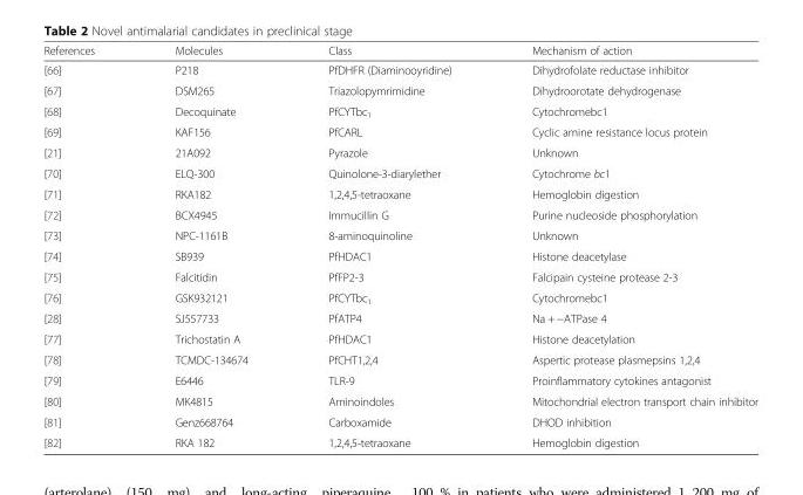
<table><thead><tr><td>References</td><td>Molecules</td><td>Class</td><td>Mechanism of action</td></tr></thead><tbody><tr><td>[66]</td><td>P218</td><td>PfDHFR (Diaminooyridine)</td><td>Dihydrofolate reductase inhibitor</td></tr><tr><td>[67]</td><td>DSM265</td><td>Triazolopymrimidine</td><td>Dihydroorotate dehydrogenase</td></tr><tr><td>[68]</td><td>Decoquinate</td><td>PfCYTbc<sub>1</sub></td><td>Cytochromebc1</td></tr><tr><td>[69]</td><td>KAF156</td><td>PfCARL</td><td>Cyclic amine resistance locus protein</td></tr><tr><td>[21]</td><td>21A092</td><td>Pyrazole</td><td>Unknown</td></tr><tr><td>[70]</td><td>ELQ-300</td><td>Quinolone-3-diarylether</td><td>Cytochrome bc1</td></tr><tr><td>[71]</td><td>RKA182</td><td>1,2,4,5-tetraoxane</td><td>Hemoglobin digestion</td></tr><tr><td>[72]</td><td>BCX4945</td><td>Immucillin G</td><td>Purine nucleoside phosphorylation</td></tr><tr><td>[73]</td><td>NPC-1161B</td><td>8-aminoquinoline</td><td>Unknown</td></tr><tr><td>[74]</td><td>SB939</td><td>PfHDAC1</td><td>Histone deacetylase</td></tr><tr><td>[75]</td><td>Falcitidin</td><td>PfFP2-3</td><td>Falcipain cysteine protease 2-3</td></tr><tr><td>[76]</td><td>GSK932121</td><td>PfCYTbc<sub>1</sub></td><td>Cytochromebc1</td></tr><tr><td>[28]</td><td>SJ557733</td><td>PfATP4</td><td>Na + −ATPase 4</td></tr><tr><td>[77]</td><td>Trichostatin A</td><td>PfHDAC1</td><td>Histone deacetylation</td></tr><tr><td>[78]</td><td>TCMDC-134674</td><td>PfCHT1,2,4</td><td>Aspertic protease plasmepsins 1,2,4</td></tr><tr><td>[79]</td><td>E6446</td><td>TLR-9</td><td>Proinflammatory cytokines antagonist</td></tr><tr><td>[80]</td><td>MK4815</td><td>Aminoindoles</td><td>Mitochondrial electron transport chain inhibitor</td></tr><tr><td>[81]</td><td>Genz668764</td><td>Carboxamide</td><td>DHOD inhibition</td></tr><tr><td>[82]</td><td>RKA 182</td><td>1,2,4,5-tetraoxane</td><td>Hemoglobin digestion</td></tr></tbody></table>